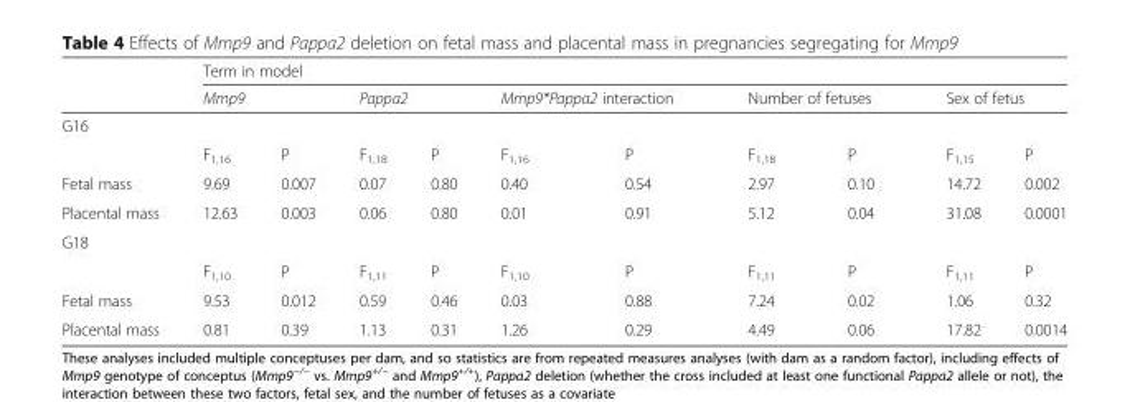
<table><thead><tr><td rowspan="2"></td><td colspan="10">Term in model</td></tr><tr><td colspan="2">Mmp9</td><td colspan="2">Pappa2</td><td colspan="2">Mmp9*Pappa2 interaction</td><td colspan="2">Number of fetuses</td><td colspan="2">Sex of fetus</td></tr><tr><td colspan="11">G16</td></tr><tr><td></td><td>F<sub>1,16</sub></td><td>P</td><td>F<sub>1,18</sub></td><td>P</td><td>F<sub>1,16</sub></td><td>P</td><td>F<sub>1,18</sub></td><td>P</td><td>F<sub>1,15</sub></td><td>P</td></tr></thead><tbody><tr><td>Fetal mass</td><td>9.69</td><td>0.007</td><td>0.07</td><td>0.80</td><td>0.40</td><td>0.54</td><td>2.97</td><td>0.10</td><td>14.72</td><td>0.002</td></tr><tr><td>Placental mass</td><td>12.63</td><td>0.003</td><td>0.06</td><td>0.80</td><td>0.01</td><td>0.91</td><td>5.12</td><td>0.04</td><td>31.08</td><td>0.0001</td></tr><tr><td colspan="11">G18</td></tr><tr><td></td><td>F<sub>1,10</sub></td><td>P</td><td>F<sub>1,11</sub></td><td>P</td><td>F<sub>1,10</sub></td><td>P</td><td>F<sub>1,11</sub></td><td>P</td><td>F<sub>1,11</sub></td><td>P</td></tr><tr><td>Fetal mass</td><td>9.53</td><td>0.012</td><td>0.59</td><td>0.46</td><td>0.03</td><td>0.88</td><td>7.24</td><td>0.02</td><td>1.06</td><td>0.32</td></tr><tr><td>Placental mass</td><td>0.81</td><td>0.39</td><td>1.13</td><td>0.31</td><td>1.26</td><td>0.29</td><td>4.49</td><td>0.06</td><td>17.82</td><td>0.0014</td></tr></tbody></table>